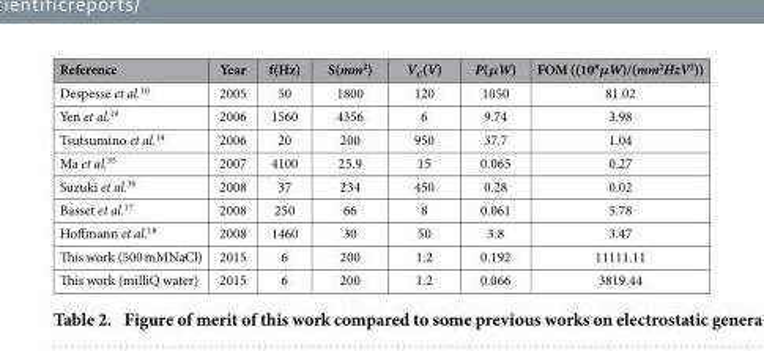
<table><thead><tr><td>Reference</td><td>Year</td><td>f(Hz)</td><td>S(mm<sup>2</sup>)</td><td>V<sub>C</sub>(V)</td><td>P(μW)</td><td>FOM ((10<sup>8</sup>μW)/(mm<sup>2</sup>HzV<sup>2</sup>))</td></tr></thead><tbody><tr><td>Despesse et al.<sup>10</sup></td><td>2005</td><td>50</td><td>1800</td><td>120</td><td>1050</td><td>81.02</td></tr><tr><td>Yen et al.<sup>19</sup></td><td>2006</td><td>1560</td><td>4356</td><td>6</td><td>9.74</td><td>3.98</td></tr><tr><td>Tsutsumino et al.<sup>14</sup></td><td>2006</td><td>20</td><td>200</td><td>950</td><td>37.7</td><td>1.04</td></tr><tr><td>Ma et al.<sup>35</sup></td><td>2007</td><td>4100</td><td>25.9</td><td>15</td><td>0.065</td><td>0.27</td></tr><tr><td>Suzuki et al.<sup>36</sup></td><td>2008</td><td>37</td><td>234</td><td>450</td><td>0.28</td><td>0.02</td></tr><tr><td>Basset et al.<sup>17</sup></td><td>2008</td><td>250</td><td>66</td><td>8</td><td>0.061</td><td>5.78</td></tr><tr><td>Hoffmann et al.<sup>18</sup></td><td>2008</td><td>1460</td><td>30</td><td>50</td><td>3.8</td><td>3.47</td></tr><tr><td>This work (500 mMNaCl)</td><td>2015</td><td>6</td><td>200</td><td>1.2</td><td>0.192</td><td>11111.11</td></tr><tr><td>This work (milliQ water)</td><td>2015</td><td>6</td><td>200</td><td>1.2</td><td>0.066</td><td>3819.44</td></tr></tbody></table>